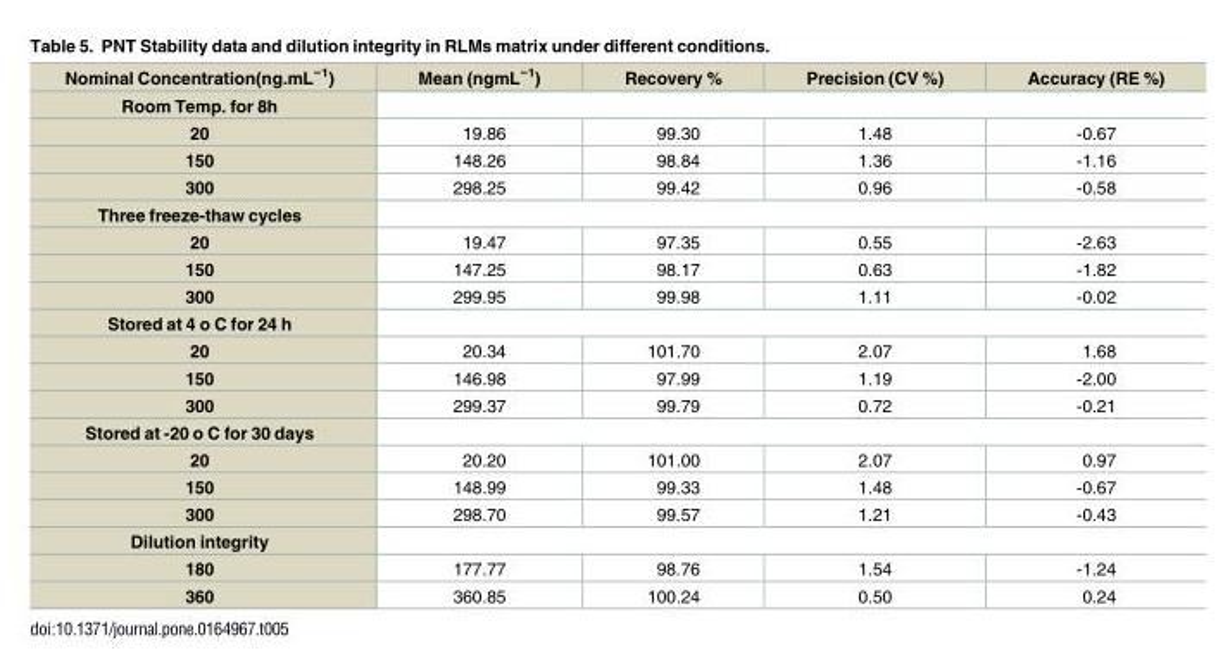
<table><thead><tr><td>Nominal Concentration(ng.mL<sup>−1</sup>)</td><td>Mean (ngmL<sup>−1</sup>)</td><td>Recovery %</td><td>Precision (CV %)</td><td>Accuracy (RE %)</td></tr></thead><tbody><tr><td colspan="5">Room Temp. for 8h</td></tr><tr><td>20</td><td>19.86</td><td>99.30</td><td>1.48</td><td>-0.67</td></tr><tr><td>150</td><td>148.26</td><td>98.84</td><td>1.36</td><td>-1.16</td></tr><tr><td>300</td><td>298.25</td><td>99.42</td><td>0.96</td><td>-0.58</td></tr><tr><td colspan="5">Three freeze-thaw cycles</td></tr><tr><td>20</td><td>19.47</td><td>97.35</td><td>0.55</td><td>-2.63</td></tr><tr><td>150</td><td>147.25</td><td>98.17</td><td>0.63</td><td>-1.82</td></tr><tr><td>300</td><td>299.95</td><td>99.98</td><td>1.11</td><td>-0.02</td></tr><tr><td colspan="5">Stored at 4 o C for 24 h</td></tr><tr><td>20</td><td>20.34</td><td>101.70</td><td>2.07</td><td>1.68</td></tr><tr><td>150</td><td>146.98</td><td>97.99</td><td>1.19</td><td>-2.00</td></tr><tr><td>300</td><td>299.37</td><td>99.79</td><td>0.72</td><td>-0.21</td></tr><tr><td colspan="5">Stored at -20 o C for 30 days</td></tr><tr><td>20</td><td>20.20</td><td>101.00</td><td>2.07</td><td>0.97</td></tr><tr><td>150</td><td>148.99</td><td>99.33</td><td>1.48</td><td>-0.67</td></tr><tr><td>300</td><td>298.70</td><td>99.57</td><td>1.21</td><td>-0.43</td></tr><tr><td colspan="5">Dilution integrity</td></tr><tr><td>180</td><td>177.77</td><td>98.76</td><td>1.54</td><td>-1.24</td></tr><tr><td>360</td><td>360.85</td><td>100.24</td><td>0.50</td><td>0.24</td></tr></tbody></table>